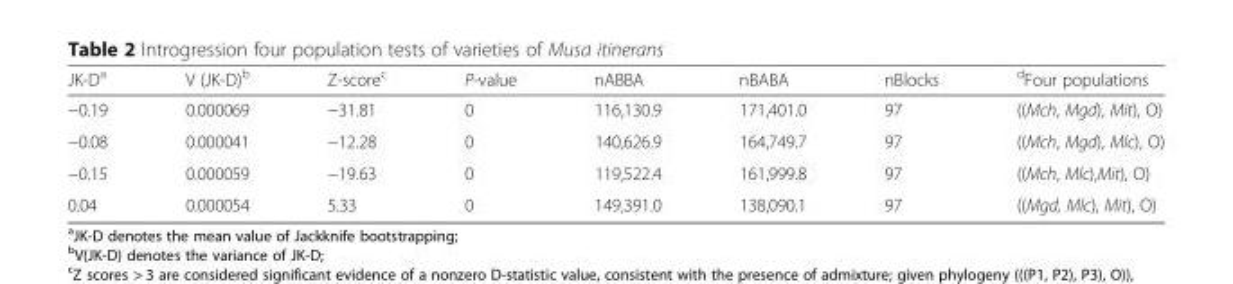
<table><thead><tr><td>JK-D<sup>a</sup></td><td>V (JK-D)<sup>b</sup></td><td>Z-score<sup>c</sup></td><td>P-value</td><td>nABBA</td><td>nBABA</td><td>nBlocks</td><td><sup>d</sup>Four populations</td></tr></thead><tbody><tr><td>−0.19</td><td>0.000069</td><td>−31.81</td><td>0</td><td>116,130.9</td><td>171,401.0</td><td>97</td><td>((Mch, Mgd), Mit), O)</td></tr><tr><td>−0.08</td><td>0.000041</td><td>−12.28</td><td>0</td><td>140,626.9</td><td>164,749.7</td><td>97</td><td>((Mch, Mgd), Mlc), O)</td></tr><tr><td>−0.15</td><td>0.000059</td><td>−19.63</td><td>0</td><td>119,522.4</td><td>161,999.8</td><td>97</td><td>((Mch, Mlc),Mit), O)</td></tr><tr><td>0.04</td><td>0.000054</td><td>5.33</td><td>0</td><td>149,391.0</td><td>138,090.1</td><td>97</td><td>((Mgd, Mlc), Mit), O)</td></tr></tbody></table>